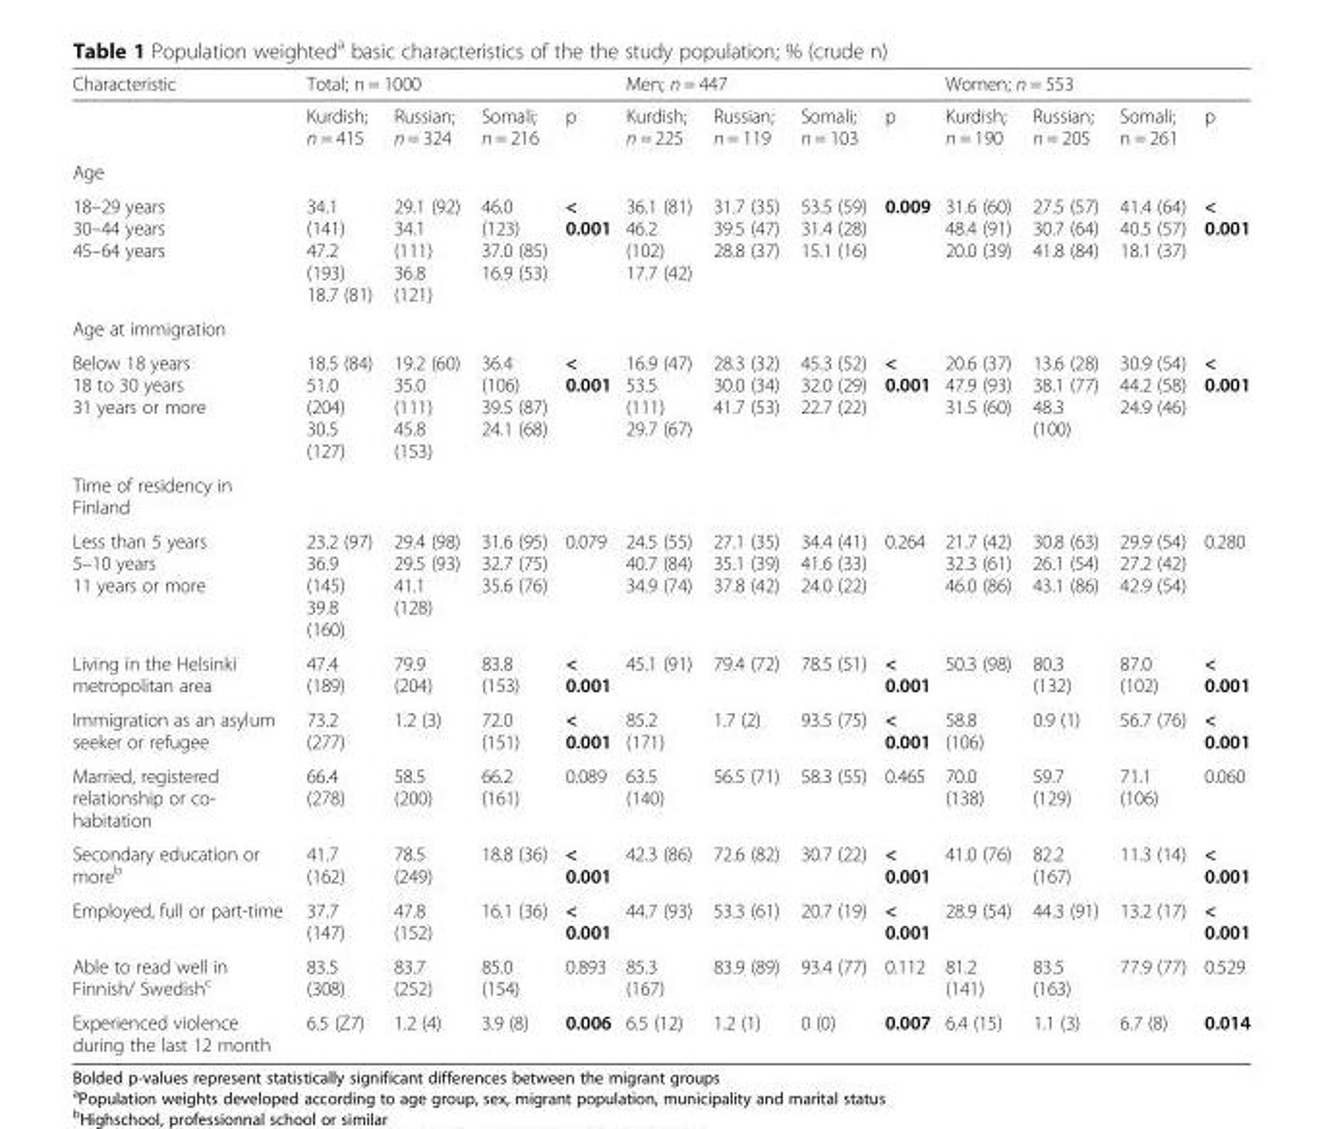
<table><thead><tr><td rowspan="2">Characteristic</td><td colspan="4">Total; n = 1000</td><td colspan="4">Men; n = 447</td><td colspan="4">Women; n = 553</td></tr><tr><td>Kurdish; n = 415</td><td>Russian; n = 324</td><td>Somali; n = 216</td><td>p</td><td>Kurdish; n = 225</td><td>Russian; n = 119</td><td>Somali; n = 103</td><td>p</td><td>Kurdish; n = 190</td><td>Russian; n = 205</td><td>Somali; n = 261</td><td>p</td></tr></thead><tbody><tr><td colspan="13">Age</td></tr><tr><td>18–29 years 30–44 years 45–64 years</td><td>34.1 (141) 47.2 (193) 18.7 (81)</td><td>29.1 (92) 34.1 (111) 36.8 (121)</td><td>46.0 (123) 37.0 (85) 16.9 (53)</td><td>&lt; 0.001</td><td>36.1 (81) 46.2 (102) 17.7 (42)</td><td>31.7 (35) 39.5 (47) 28.8 (37)</td><td>53.5 (59) 31.4 (28) 15.1 (16)</td><td>0.009</td><td>31.6 (60) 48.4 (91) 20.0 (39)</td><td>27.5 (57) 30.7 (64) 41.8 (84)</td><td>41.4 (64) 40.5 (57) 18.1 (37)</td><td>&lt; 0.001</td></tr><tr><td colspan="13">Age at immigration</td></tr><tr><td>Below 18 years 18 to 30 years 31 years or more</td><td>18.5 (84) 51.0 (204) 30.5 (127)</td><td>19.2 (60) 35.0 (111) 45.8 (153)</td><td>36.4 (106) 39.5 (87) 24.1 (68)</td><td>&lt; 0.001</td><td>16.9 (47) 53.5 (111) 29.7 (67)</td><td>28.3 (32) 30.0 (34) 41.7 (53)</td><td>45.3 (52) 32.0 (29) 22.7 (22)</td><td>&lt; 0.001</td><td>20.6 (37) 47.9 (93) 31.5 (60)</td><td>13.6 (28) 38.1 (77) 48.3 (100)</td><td>30.9 (54) 44.2 (58) 24.9 (46)</td><td>&lt; 0.001</td></tr><tr><td colspan="13">Time of residency in Finland</td></tr><tr><td>Less than 5 years 5–10 years 11 years or more</td><td>23.2 (97) 36.9 (145) 39.8 (160)</td><td>29.4 (98) 29.5 (93) 41.1 (128)</td><td>31.6 (95) 32.7 (75) 35.6 (76)</td><td>0.079</td><td>24.5 (55) 40.7 (84) 34.9 (74)</td><td>27.1 (35) 35.1 (39) 37.8 (42)</td><td>34.4 (41) 41.6 (33) 24.0 (22)</td><td>0.264</td><td>21.7 (42) 32.3 (61) 46.0 (86)</td><td>30.8 (63) 26.1 (54) 43.1 (86)</td><td>29.9 (54) 27.2 (42) 42.9 (54)</td><td>0.280</td></tr><tr><td>Living in the Helsinki metropolitan area</td><td>47.4 (189)</td><td>79.9 (204)</td><td>83.8 (153)</td><td>&lt; 0.001</td><td>45.1 (91)</td><td>79.4 (72)</td><td>78.5 (51)</td><td>&lt; 0.001</td><td>50.3 (98)</td><td>80.3 (132)</td><td>87.0 (102)</td><td>&lt; 0.001</td></tr><tr><td>Immigration as an asylum seeker or refugee</td><td>73.2 (277)</td><td>1.2 (3)</td><td>72.0 (151)</td><td>&lt; 0.001</td><td>85.2 (171)</td><td>1.7 (2)</td><td>93.5 (75)</td><td>&lt; 0.001</td><td>58.8 (106)</td><td>0.9 (1)</td><td>56.7 (76)</td><td>&lt; 0.001</td></tr><tr><td>Married, registered relationship or co- habitation</td><td>66.4 (278)</td><td>58.5 (200)</td><td>66.2 (161)</td><td>0.089</td><td>63.5 (140)</td><td>56.5 (71)</td><td>58.3 (55)</td><td>0.465</td><td>70.0 (138)</td><td>59.7 (129)</td><td>71.1 (106)</td><td>0.060</td></tr><tr><td>Secondary education or more<sup>b</sup></td><td>41.7 (162)</td><td>78.5 (249)</td><td>18.8 (36)</td><td>&lt; 0.001</td><td>42.3 (86)</td><td>72.6 (82)</td><td>30.7 (22)</td><td>&lt; 0.001</td><td>41.0 (76)</td><td>82.2 (167)</td><td>11.3 (14)</td><td>&lt; 0.001</td></tr><tr><td>Employed, full or part-time</td><td>37.7 (147)</td><td>47.8 (152)</td><td>16.1 (36)</td><td>&lt; 0.001</td><td>44.7 (93)</td><td>53.3 (61)</td><td>20.7 (19)</td><td>&lt; 0.001</td><td>28.9 (54)</td><td>44.3 (91)</td><td>13.2 (17)</td><td>&lt; 0.001</td></tr><tr><td>Able to read well in Finnish/ Swedish<sup>c</sup></td><td>83.5 (308)</td><td>83.7 (252)</td><td>85.0 (154)</td><td>0.893</td><td>85.3 (167)</td><td>83.9 (89)</td><td>93.4 (77)</td><td>0.112</td><td>81.2 (141)</td><td>83.5 (163)</td><td>77.9 (77)</td><td>0.529</td></tr><tr><td>Experienced violence during the last 12 month</td><td>6.5 (Z7)</td><td>1.2 (4)</td><td>3.9 (8)</td><td>0.006</td><td>6.5 (12)</td><td>1.2 (1)</td><td>0 (0)</td><td>0.007</td><td>6.4 (15)</td><td>1.1 (3)</td><td>6.7 (8)</td><td>0.014</td></tr></tbody></table>